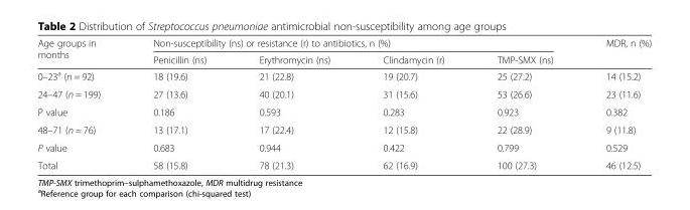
<table><thead><tr><td rowspan="2">Age groups in months</td><td colspan="4">Non-susceptibility (ns) or resistance (r) to antibiotics, n (%)</td><td rowspan="2">MDR, n (%)</td></tr><tr><td>Penicillin (ns)</td><td>Erythromycin (ns)</td><td>Clindamycin (r)</td><td>TMP-SMX (ns)</td></tr></thead><tbody><tr><td>0–23<sup>a</sup> (n = 92)</td><td>18 (19.6)</td><td>21 (22.8)</td><td>19 (20.7)</td><td>25 (27.2)</td><td>14 (15.2)</td></tr><tr><td>24–47 (n = 199)</td><td>27 (13.6)</td><td>40 (20.1)</td><td>31 (15.6)</td><td>53 (26.6)</td><td>23 (11.6)</td></tr><tr><td>P value</td><td>0.186</td><td>0.593</td><td>0.283</td><td>0.923</td><td>0.382</td></tr><tr><td>48–71 (n = 76)</td><td>13 (17.1)</td><td>17 (22.4)</td><td>12 (15.8)</td><td>22 (28.9)</td><td>9 (11.8)</td></tr><tr><td>P value</td><td>0.683</td><td>0.944</td><td>0.422</td><td>0.799</td><td>0.529</td></tr><tr><td>Total</td><td>58 (15.8)</td><td>78 (21.3)</td><td>62 (16.9)</td><td>100 (27.3)</td><td>46 (12.5)</td></tr></tbody></table>